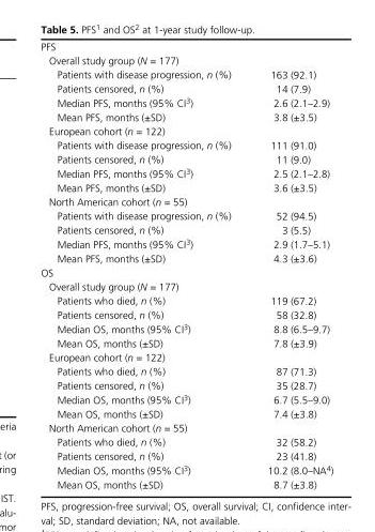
<table><tbody><tr><td colspan="2">PFS</td></tr><tr><td colspan="2">Overall study group (N = 177)</td></tr><tr><td>Patients with disease progression, n (%)</td><td>163 (92.1)</td></tr><tr><td>Patients censored, n (%)</td><td>14 (7.9)</td></tr><tr><td>Median PFS, months (95% CI3)</td><td>2.6 (2.1–2.9)</td></tr><tr><td>Mean PFS, months (±SD)</td><td>3.8 (±3.5)</td></tr><tr><td colspan="2">European cohort (n = 122)</td></tr><tr><td>Patients with disease progression, n (%)</td><td>111 (91.0)</td></tr><tr><td>Patients censored, n (%)</td><td>11 (9.0)</td></tr><tr><td>Median PFS, months (95% CI3)</td><td>2.5 (2.1–2.8)</td></tr><tr><td>Mean PFS, months (±SD)</td><td>3.6 (±3.5)</td></tr><tr><td colspan="2">North American cohort (n = 55)</td></tr><tr><td>Patients with disease progression, n (%)</td><td>52 (94.5)</td></tr><tr><td>Patients censored, n (%)</td><td>3 (5.5)</td></tr><tr><td>Median PFS, months (95% CI3)</td><td>2.9 (1.7–5.1)</td></tr><tr><td>Mean PFS, months (±SD)</td><td>4.3 (±3.6)</td></tr><tr><td colspan="2">OS</td></tr><tr><td colspan="2">Overall study group (N = 177)</td></tr><tr><td>Patients who died, n (%)</td><td>119 (67.2)</td></tr><tr><td>Patients censored, n (%)</td><td>58 (32.8)</td></tr><tr><td>Median OS, months (95% CI3)</td><td>8.8 (6.5–9.7)</td></tr><tr><td>Mean OS, months (±SD)</td><td>7.8 (±3.9)</td></tr><tr><td colspan="2">European cohort (n = 122)</td></tr><tr><td>Patients who died, n (%)</td><td>87 (71.3)</td></tr><tr><td>Patients censored, n (%)</td><td>35 (28.7)</td></tr><tr><td>Median OS, months (95% CI3)</td><td>6.7 (5.5–9.0)</td></tr><tr><td>Mean OS, months (±SD)</td><td>7.4 (±3.8)</td></tr><tr><td colspan="2">North American cohort (n = 55)</td></tr><tr><td>Patients who died, n (%)</td><td>32 (58.2)</td></tr><tr><td>Patients censored, n (%)</td><td>23 (41.8)</td></tr><tr><td>Median OS, months (95% CI3)</td><td>10.2 (8.0–NA4)</td></tr><tr><td>Mean OS, months (±SD)</td><td>8.7 (±3.8)</td></tr></tbody></table>